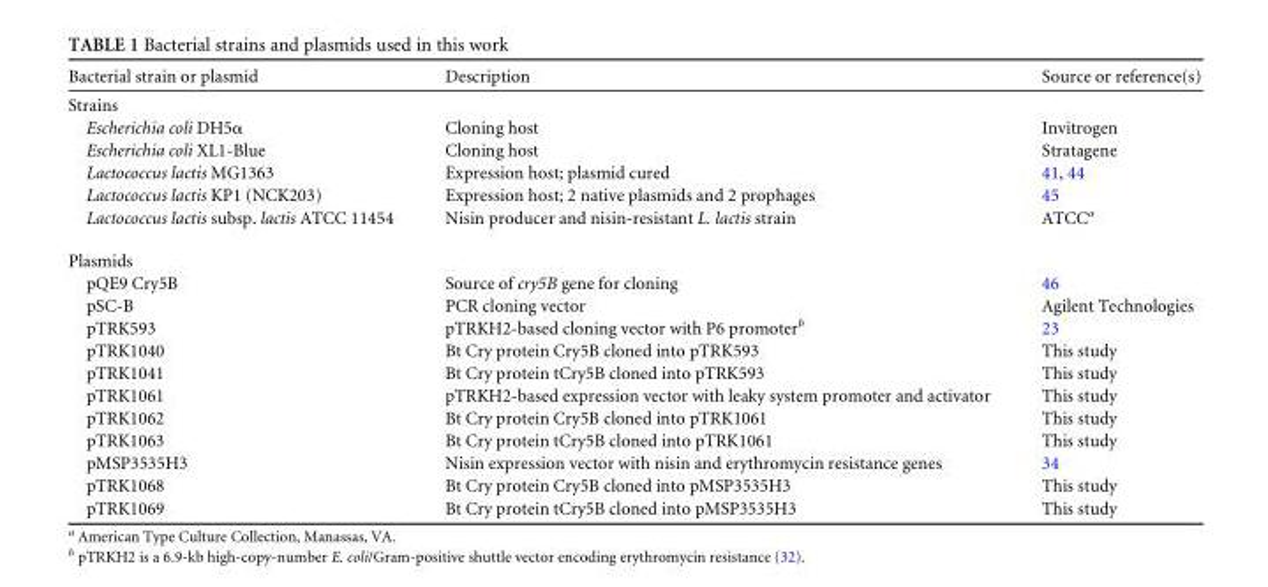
<table><thead><tr><td>Bacterial strain or plasmid</td><td>Description</td><td>Source or reference(s)</td></tr></thead><tbody><tr><td colspan="3">Strains</td></tr><tr><td>Escherichia coli DH5α</td><td>Cloning host</td><td>Invitrogen</td></tr><tr><td>Escherichia coli XL1-Blue</td><td>Cloning host</td><td>Stratagene</td></tr><tr><td>Lactococcus lactis MG1363</td><td>Expression host; plasmid cured</td><td>41, 44</td></tr><tr><td>Lactococcus lactis KP1 (NCK203)</td><td>Expression host; 2 native plasmids and 2 prophages</td><td>45</td></tr><tr><td>Lactococcus lactis subsp. lactis ATCC 11454</td><td>Nisin producer and nisin-resistant L. lactis strain</td><td>ATCC<sup>a</sup></td></tr><tr><td colspan="3">Plasmids</td></tr><tr><td>pQE9 Cry5B</td><td>Source of cry5B gene for cloning</td><td>46</td></tr><tr><td>pSC-B</td><td>PCR cloning vector</td><td>Agilent Technologies</td></tr><tr><td>pTRK593</td><td>pTRKH2-based cloning vector with P6 promoter<sup>b</sup></td><td>23</td></tr><tr><td>pTRK1040</td><td>Bt Cry protein Cry5B cloned into pTRK593</td><td>This study</td></tr><tr><td>pTRK1041</td><td>Bt Cry protein tCry5B cloned into pTRK593</td><td>This study</td></tr><tr><td>pTRK1061</td><td>pTRKH2-based expression vector with leaky system promoter and activator</td><td>This study</td></tr><tr><td>pTRK1062</td><td>Bt Cry protein Cry5B cloned into pTRK1061</td><td>This study</td></tr><tr><td>pTRK1063</td><td>Bt Cry protein tCry5B cloned into pTRK1061</td><td>This study</td></tr><tr><td>pMSP3535H3</td><td>Nisin expression vector with nisin and erythromycin resistance genes</td><td>34</td></tr><tr><td>pTRK1068</td><td>Bt Cry protein Cry5B cloned into pMSP3535H3</td><td>This study</td></tr><tr><td>pTRK1069</td><td>Bt Cry protein tCry5B cloned into pMSP3535H3</td><td>This study</td></tr></tbody></table>